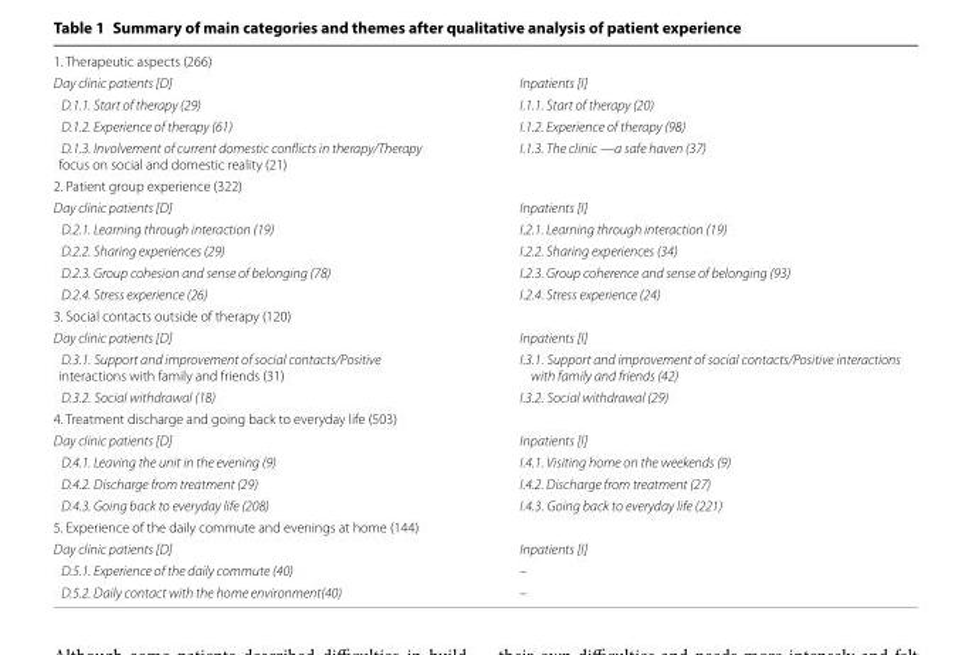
<table><tbody><tr><td colspan="2">1. Therapeutic aspects (266)</td></tr><tr><td>Day clinic patients [D]</td><td>Inpatients [I]</td></tr><tr><td>D.1.1. Start of therapy (29)</td><td>I.1.1. Start of therapy (20)</td></tr><tr><td>D.1.2. Experience of therapy (61)</td><td>I.1.2. Experience of therapy (98)</td></tr><tr><td>D.1.3. Involvement of current domestic conflicts in therapy/Therapy focus on social and domestic reality (21)</td><td>I.1.3. The clinic —a safe haven (37)</td></tr><tr><td colspan="2">2. Patient group experience (322)</td></tr><tr><td>Day clinic patients [D]</td><td>Inpatients [I]</td></tr><tr><td>D.2.1. Learning through interaction (19)</td><td>I.2.1. Learning through interaction (19)</td></tr><tr><td>D.2.2. Sharing experiences (29)</td><td>I.2.2. Sharing experiences (34)</td></tr><tr><td>D.2.3. Group cohesion and sense of belonging (78)</td><td>I.2.3. Group coherence and sense of belonging (93)</td></tr><tr><td>D.2.4. Stress experience (26)</td><td>I.2.4. Stress experience (24)</td></tr><tr><td colspan="2">3. Social contacts outside of therapy (120)</td></tr><tr><td>Day clinic patients [D]</td><td>Inpatients [I]</td></tr><tr><td>D.3.1. Support and improvement of social contacts/Positive interactions with family and friends (31)</td><td>I.3.1. Support and improvement of social contacts/Positive interactions with family and friends (42)</td></tr><tr><td>D.3.2. Social withdrawal (18)</td><td>I.3.2. Social withdrawal (29)</td></tr><tr><td colspan="2">4. Treatment discharge and going back to everyday life (503)</td></tr><tr><td>Day clinic patients [D]</td><td>Inpatients [I]</td></tr><tr><td>D.4.1. Leaving the unit in the evening (9)</td><td>I.4.1. Visiting home on the weekends (9)</td></tr><tr><td>D.4.2. Discharge from treatment (29)</td><td>I.4.2. Discharge from treatment (27)</td></tr><tr><td>D.4.3. Going back to everyday life (208)</td><td>I.4.3. Going back to everyday life (221)</td></tr><tr><td colspan="2">5. Experience of the daily commute and evenings at home (144)</td></tr><tr><td>Day clinic patients [D]</td><td>Inpatients [I]</td></tr><tr><td>D.5.1. Experience of the daily commute (40)</td><td>–</td></tr><tr><td>D.5.2. Daily contact with the home environment(40)</td><td>–</td></tr></tbody></table>